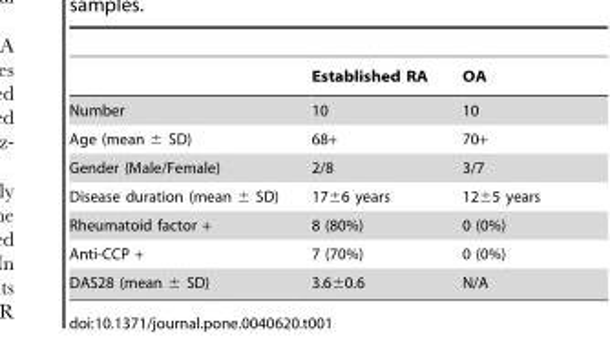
<table><thead><tr><td></td><td>Established RA</td><td>OA</td></tr></thead><tbody><tr><td>Number</td><td>10</td><td>10</td></tr><tr><td>Age (mean ± SD)</td><td>68+</td><td>70+</td></tr><tr><td>Gender (Male/Female)</td><td>2/8</td><td>3/7</td></tr><tr><td>Disease duration (mean ± SD)</td><td>17±6 years</td><td>12±5 years</td></tr><tr><td>Rheumatoid factor +</td><td>8 (80%)</td><td>0 (0%)</td></tr><tr><td>Anti-CCP +</td><td>7 (70%)</td><td>0 (0%)</td></tr><tr><td>DAS28 (mean ± SD)</td><td>3.6±0.6</td><td>N/A</td></tr></tbody></table>